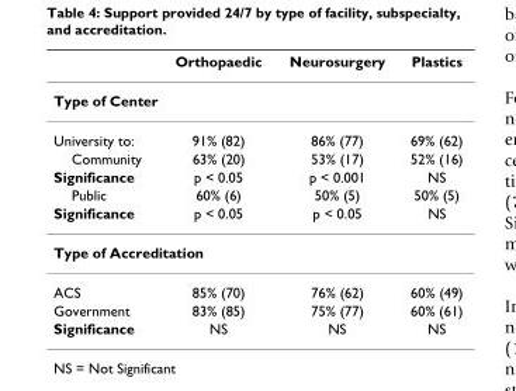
<table><thead><tr><td></td><td>Orthopaedic</td><td>Neurosurgery</td><td>Plastics</td></tr></thead><tbody><tr><td colspan="4">Type of Center</td></tr><tr><td>University to:</td><td>91% (82)</td><td>86% (77)</td><td>69% (62)</td></tr><tr><td>Community</td><td>63% (20)</td><td>53% (17)</td><td>52% (16)</td></tr><tr><td>Significance</td><td>p &lt; 0.05</td><td>p &lt; 0.001</td><td>NS</td></tr><tr><td>Public</td><td>60% (6)</td><td>50% (5)</td><td>50% (5)</td></tr><tr><td>Significance</td><td>p &lt; 0.05</td><td>p &lt; 0.05</td><td>NS</td></tr><tr><td colspan="4">Type of Accreditation</td></tr><tr><td>ACS</td><td>85% (70)</td><td>76% (62)</td><td>60% (49)</td></tr><tr><td>Government</td><td>83% (85)</td><td>75% (77)</td><td>60% (61)</td></tr><tr><td>Significance</td><td>NS</td><td>NS</td><td>NS</td></tr></tbody></table>